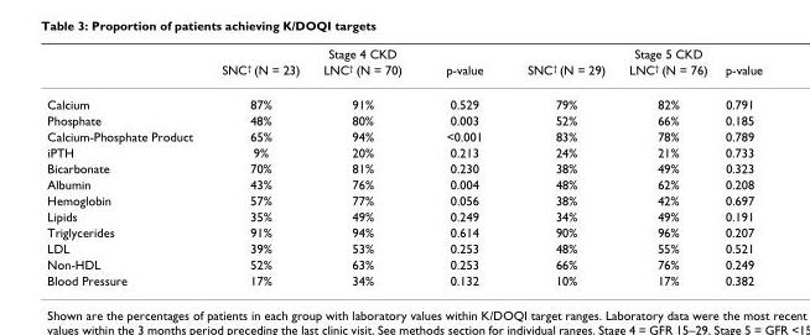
<table><thead><tr><td rowspan="2"></td><td colspan="3">Stage 4 CKD</td><td colspan="3">Stage 5 CKD</td></tr><tr><td>SNC<sup>†</sup> (N = 23)</td><td>LNC<sup>†</sup> (N = 70)</td><td>p-value</td><td>SNC<sup>†</sup> (N = 29)</td><td>LNC<sup>†</sup> (N = 76)</td><td>p-value</td></tr></thead><tbody><tr><td>Calcium</td><td>87%</td><td>91%</td><td>0.529</td><td>79%</td><td>82%</td><td>0.791</td></tr><tr><td>Phosphate</td><td>48%</td><td>80%</td><td>0.003</td><td>52%</td><td>66%</td><td>0.185</td></tr><tr><td>Calcium-Phosphate Product</td><td>65%</td><td>94%</td><td>&lt;0.001</td><td>83%</td><td>78%</td><td>0.789</td></tr><tr><td>iPTH</td><td>9%</td><td>20%</td><td>0.213</td><td>24%</td><td>21%</td><td>0.733</td></tr><tr><td>Bicarbonate</td><td>70%</td><td>81%</td><td>0.230</td><td>38%</td><td>49%</td><td>0.323</td></tr><tr><td>Albumin</td><td>43%</td><td>76%</td><td>0.004</td><td>48%</td><td>62%</td><td>0.208</td></tr><tr><td>Hemoglobin</td><td>57%</td><td>77%</td><td>0.056</td><td>38%</td><td>42%</td><td>0.697</td></tr><tr><td>Lipids</td><td>35%</td><td>49%</td><td>0.249</td><td>34%</td><td>49%</td><td>0.191</td></tr><tr><td>Triglycerides</td><td>91%</td><td>94%</td><td>0.614</td><td>90%</td><td>96%</td><td>0.207</td></tr><tr><td>LDL</td><td>39%</td><td>53%</td><td>0.253</td><td>48%</td><td>55%</td><td>0.521</td></tr><tr><td>Non-HDL</td><td>52%</td><td>63%</td><td>0.253</td><td>66%</td><td>76%</td><td>0.249</td></tr><tr><td>Blood Pressure</td><td>17%</td><td>34%</td><td>0.132</td><td>10%</td><td>17%</td><td>0.382</td></tr></tbody></table>